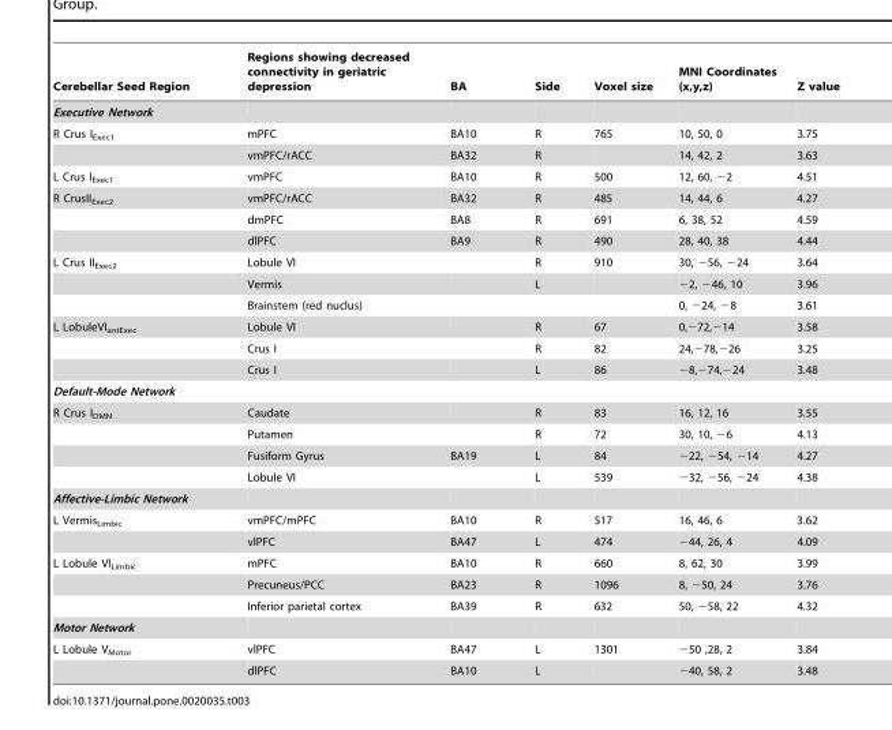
<table><thead><tr><td>Cerebellar Seed Region</td><td>Regions showing decreased connectivity in geriatric depression</td><td>BA</td><td>Side</td><td>Voxel size</td><td>MNI Coordinates (x,y,z)</td><td>Z value</td></tr></thead><tbody><tr><td colspan="7">Executive Network</td></tr><tr><td rowspan="2">R Crus I<sub>Exec1</sub></td><td>mPFC</td><td>BA10</td><td>R</td><td>765</td><td>10, 50, 0</td><td>3.75</td></tr><tr><td>vmPFC/rACC</td><td>BA32</td><td>R</td><td></td><td>14, 42, 2</td><td>3.63</td></tr><tr><td>L Crus I<sub>Exec1</sub></td><td>vmPFC</td><td>BA10</td><td>R</td><td>500</td><td>12, 60, −2</td><td>4.51</td></tr><tr><td rowspan="3">R CrusII<sub>Exec2</sub></td><td>vmPFC/rACC</td><td>BA32</td><td>R</td><td>485</td><td>14, 44, 6</td><td>4.27</td></tr><tr><td>dmPFC</td><td>BA8</td><td>R</td><td>691</td><td>6, 38, 52</td><td>4.59</td></tr><tr><td>dlPFC</td><td>BA9</td><td>R</td><td>490</td><td>28, 40, 38</td><td>4.44</td></tr><tr><td rowspan="3">L Crus II<sub>Exec2</sub></td><td>Lobule VI</td><td></td><td>R</td><td>910</td><td>30, −56, −24</td><td>3.64</td></tr><tr><td>Vermis</td><td></td><td>L</td><td></td><td>−2, −46, 10</td><td>3.96</td></tr><tr><td>Brainstem (red nuclus)</td><td></td><td></td><td></td><td>0, −24, −8</td><td>3.61</td></tr><tr><td rowspan="3">L LobuleVI<sub>antExec</sub></td><td>Lobule VI</td><td></td><td>R</td><td>67</td><td>0,−72,−14</td><td>3.58</td></tr><tr><td>Crus I</td><td></td><td>R</td><td>82</td><td>24,−78,−26</td><td>3.25</td></tr><tr><td>Crus I</td><td></td><td>L</td><td>86</td><td>−8,−74,−24</td><td>3.48</td></tr><tr><td colspan="7">Default-Mode Network</td></tr><tr><td rowspan="4">R Crus I<sub>DMN</sub></td><td>Caudate</td><td></td><td>R</td><td>83</td><td>16, 12, 16</td><td>3.55</td></tr><tr><td>Putamen</td><td></td><td>R</td><td>72</td><td>30, 10, −6</td><td>4.13</td></tr><tr><td>Fusiform Gyrus</td><td>BA19</td><td>L</td><td>84</td><td>−22, −54, −14</td><td>4.27</td></tr><tr><td>Lobule VI</td><td></td><td>L</td><td>539</td><td>−32, −56, −24</td><td>4.38</td></tr><tr><td colspan="7">Affective-Limbic Network</td></tr><tr><td rowspan="2">L Vermis<sub>Limbic</sub></td><td>vmPFC/mPFC</td><td>BA10</td><td>R</td><td>517</td><td>16, 46, 6</td><td>3.62</td></tr><tr><td>vlPFC</td><td>BA47</td><td>L</td><td>474</td><td>−44, 26, 4</td><td>4.09</td></tr><tr><td rowspan="3">L Lobule VI<sub>Limbic</sub></td><td>mPFC</td><td>BA10</td><td>R</td><td>660</td><td>8, 62, 30</td><td>3.99</td></tr><tr><td>Precuneus/PCC</td><td>BA23</td><td>R</td><td>1096</td><td>8, −50, 24</td><td>3.76</td></tr><tr><td>Inferior parietal cortex</td><td>BA39</td><td>R</td><td>632</td><td>50, −58, 22</td><td>4.32</td></tr><tr><td colspan="7">Motor Network</td></tr><tr><td rowspan="2">L Lobule V<sub>Motor</sub></td><td>vlPFC</td><td>BA47</td><td>L</td><td>1301</td><td>−50 ,28, 2</td><td>3.84</td></tr><tr><td>dlPFC</td><td>BA10</td><td>L</td><td></td><td>−40, 58, 2</td><td>3.48</td></tr></tbody></table>